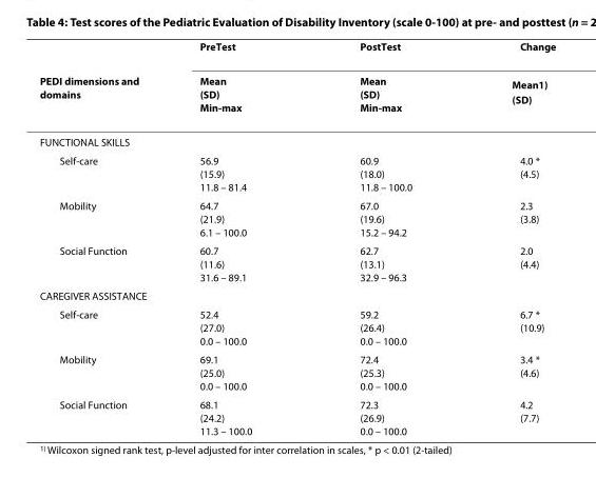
<table><thead><tr><td rowspan="2">PEDI dimensions and domains</td><td rowspan="2">PreTest Mean (SD) Min-max</td><td rowspan="2">PostTest Mean (SD) Min-max</td><td rowspan="2">Change Mean<sup>1)</sup> (SD)</td></tr><tr></tr></thead><tbody><tr><td colspan="4">FUNCTIONAL SKILLS</td></tr><tr><td>Self-care</td><td>56.9 (15.9) 11.8 – 81.4</td><td>60.9 (18.0) 11.8 – 100.0</td><td>4.0 * (4.5)</td></tr><tr><td>Mobility</td><td>64.7 (21.9) 6.1 – 100.0</td><td>67.0 (19.6) 15.2 – 94.2</td><td>2.3 (3.8)</td></tr><tr><td>Social Function</td><td>60.7 (11.6) 31.6 – 89.1</td><td>62.7 (13.1) 32.9 – 96.3</td><td>2.0 (4.4)</td></tr><tr><td colspan="4">CAREGIVER ASSISTANCE</td></tr><tr><td>Self-care</td><td>52.4 (27.0) 0.0 – 100.0</td><td>59.2 (26.4) 0.0 – 100.0</td><td>6.7 * (10.9)</td></tr><tr><td>Mobility</td><td>69.1 (25.0) 0.0 – 100.0</td><td>72.4 (25.3) 0.0 – 100.0</td><td>3.4 * (4.6)</td></tr><tr><td>Social Function</td><td>68.1 (24.2) 11.3 – 100.0</td><td>72.3 (26.9) 0.0 – 100.0</td><td>4.2 (7.7)</td></tr></tbody></table>